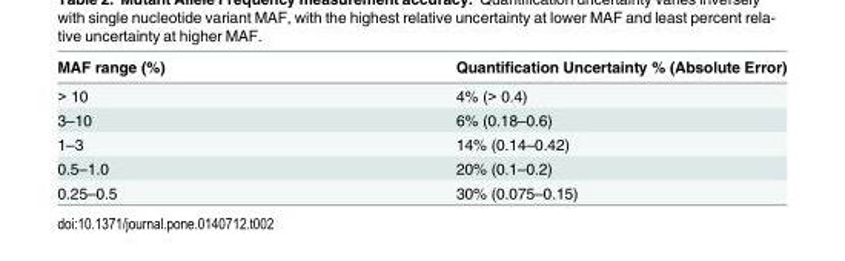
<table><thead><tr><td>MAF range (%)</td><td>Quantification Uncertainty % (Absolute Error)</td></tr></thead><tbody><tr><td>&gt; 10</td><td>4% (&gt; 0.4)</td></tr><tr><td>3–10</td><td>6% (0.18–0.6)</td></tr><tr><td>1–3</td><td>14% (0.14–0.42)</td></tr><tr><td>0.5–1.0</td><td>20% (0.1–0.2)</td></tr><tr><td>0.25–0.5</td><td>30% (0.075–0.15)</td></tr></tbody></table>